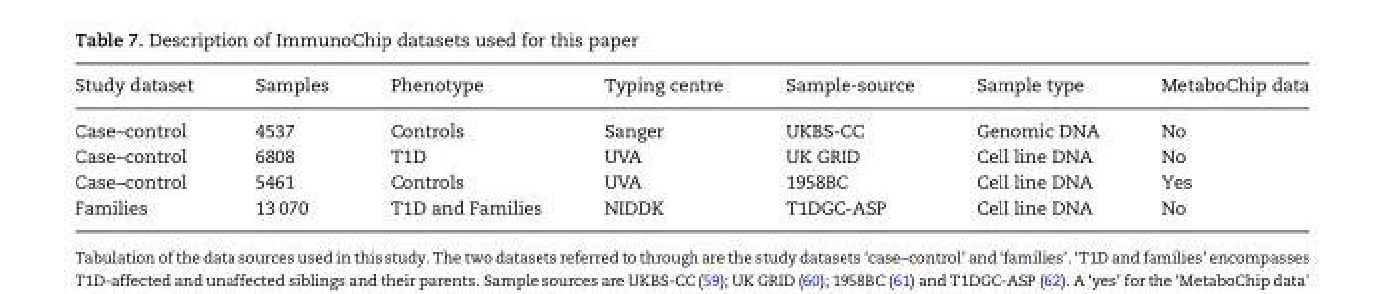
<table><thead><tr><td>Study dataset</td><td>Samples</td><td>Phenotype</td><td>Typing centre</td><td>Sample-source</td><td>Sample type</td><td>MetaboChip data</td></tr></thead><tbody><tr><td>Case–control</td><td>4537</td><td>Controls</td><td>Sanger</td><td>UKBS-CC</td><td>Genomic DNA</td><td>No</td></tr><tr><td>Case–control</td><td>6808</td><td>T1D</td><td>UVA</td><td>UK GRID</td><td>Cell line DNA</td><td>No</td></tr><tr><td>Case–control</td><td>5461</td><td>Controls</td><td>UVA</td><td>1958BC</td><td>Cell line DNA</td><td>Yes</td></tr><tr><td>Families</td><td>13 070</td><td>T1D and Families</td><td>NIDDK</td><td>T1DGC-ASP</td><td>Cell line DNA</td><td>No</td></tr></tbody></table>